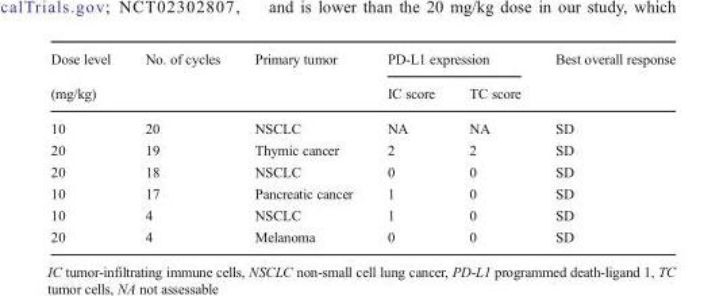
<table><thead><tr><td rowspan="2">Dose level (mg/kg)</td><td rowspan="2">No. of cycles</td><td rowspan="2">Primary tumor</td><td colspan="2">PD-L1 expression</td><td rowspan="2">Best overall response</td></tr><tr><td>IC score</td><td>TC score</td></tr></thead><tbody><tr><td>10</td><td>20</td><td>NSCLC</td><td>NA</td><td>NA</td><td>SD</td></tr><tr><td>20</td><td>19</td><td>Thymic cancer</td><td>2</td><td>2</td><td>SD</td></tr><tr><td>20</td><td>18</td><td>NSCLC</td><td>0</td><td>0</td><td>SD</td></tr><tr><td>10</td><td>17</td><td>Pancreatic cancer</td><td>1</td><td>0</td><td>SD</td></tr><tr><td>10</td><td>4</td><td>NSCLC</td><td>1</td><td>0</td><td>SD</td></tr><tr><td>20</td><td>4</td><td>Melanoma</td><td>0</td><td>0</td><td>SD</td></tr></tbody></table>